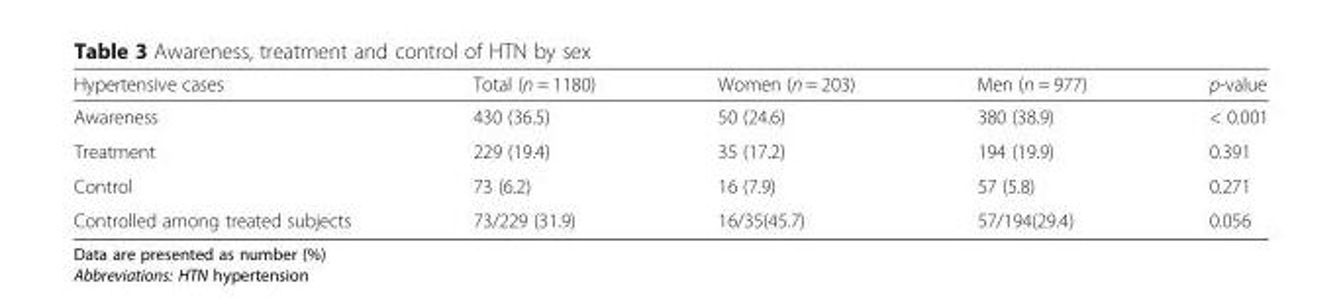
<table><thead><tr><td>Hypertensive cases</td><td>Total (n = 1180)</td><td>Women (n = 203)</td><td>Men (n = 977)</td><td>p-value</td></tr></thead><tbody><tr><td>Awareness</td><td>430 (36.5)</td><td>50 (24.6)</td><td>380 (38.9)</td><td>&lt; 0.001</td></tr><tr><td>Treatment</td><td>229 (19.4)</td><td>35 (17.2)</td><td>194 (19.9)</td><td>0.391</td></tr><tr><td>Control</td><td>73 (6.2)</td><td>16 (7.9)</td><td>57 (5.8)</td><td>0.271</td></tr><tr><td>Controlled among treated subjects</td><td>73/229 (31.9)</td><td>16/35(45.7)</td><td>57/194(29.4)</td><td>0.056</td></tr></tbody></table>